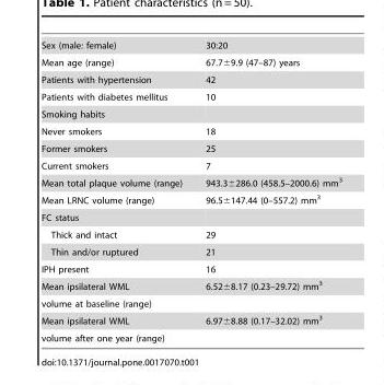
<table><tbody><tr><td>Sex (male: female)</td><td>30:20</td></tr><tr><td>Mean age (range)</td><td>67.7±9.9 (47–87) years</td></tr><tr><td>Patients with hypertension</td><td>42</td></tr><tr><td>Patients with diabetes mellitus</td><td>10</td></tr><tr><td colspan="2">Smoking habits</td></tr><tr><td>Never smokers</td><td>18</td></tr><tr><td>Former smokers</td><td>25</td></tr><tr><td>Current smokers</td><td>7</td></tr><tr><td>Mean total plaque volume (range)</td><td>943.3±286.0 (458.5–2000.6) mm<sup>3</sup></td></tr><tr><td>Mean LRNC volume (range)</td><td>96.5±147.44 (0–557.2) mm<sup>3</sup></td></tr><tr><td colspan="2">FC status</td></tr><tr><td>Thick and intact</td><td>29</td></tr><tr><td>Thin and/or ruptured</td><td>21</td></tr><tr><td>IPH present</td><td>16</td></tr><tr><td>Mean ipsilateral WML</td><td>6.52±8.17 (0.23–29.72) mm<sup>3</sup></td></tr><tr><td colspan="2">volume at baseline (range)</td></tr><tr><td>Mean ipsilateral WML</td><td>6.97±8.88 (0.17–32.02) mm<sup>3</sup></td></tr><tr><td>volume after one year (range)</td><td></td></tr></tbody></table>